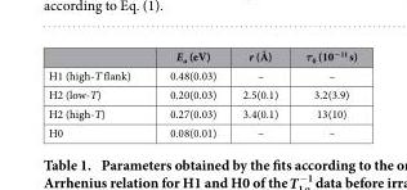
<table><thead><tr><td></td><td>E<sub>a</sub> (eV)</td><td>r (Å)</td><td>τ<sub>0</sub> (10<sup>−11</sup> s)</td></tr></thead><tbody><tr><td>H1 (high-T flank)</td><td>0.48(0.03)</td><td>–</td><td>–</td></tr><tr><td>H2 (low-T)</td><td>0.20(0.03)</td><td>2.5(0.1)</td><td>3.2(3.9)</td></tr><tr><td>H2 (high-T)</td><td>0.27(0.03)</td><td>3.4(0.1)</td><td>13(10)</td></tr><tr><td>H0</td><td>0.08(0.01)</td><td>–</td><td>–</td></tr></tbody></table>